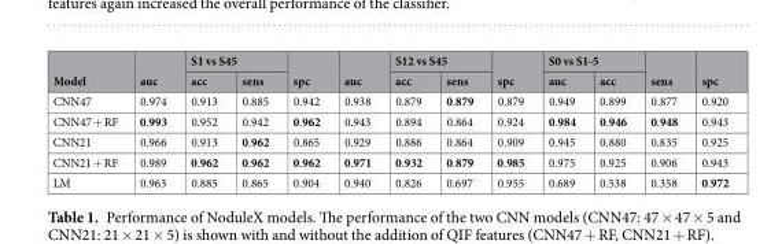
<table><thead><tr><td rowspan="2">Model</td><td rowspan="2">auc</td><td colspan="2">S1 vs S45</td><td rowspan="2">spc</td><td rowspan="2">auc</td><td colspan="2">S12 vs S45</td><td rowspan="2">spc</td><td colspan="2">S0 vs S1-5</td><td rowspan="2">sens</td><td rowspan="2">spc</td></tr><tr><td>acc</td><td>sens</td><td>acc</td><td>sens</td><td>auc</td><td>acc</td></tr></thead><tbody><tr><td>CNN47</td><td>0.974</td><td>0.913</td><td>0.885</td><td>0.942</td><td>0.938</td><td>0.879</td><td>0.879</td><td>0.879</td><td>0.949</td><td>0.899</td><td>0.877</td><td>0.920</td></tr><tr><td>CNN47 + RF</td><td>0.993</td><td>0.952</td><td>0.942</td><td>0.962</td><td>0.943</td><td>0.894</td><td>0.864</td><td>0.924</td><td>0.984</td><td>0.946</td><td>0.948</td><td>0.943</td></tr><tr><td>CNN21</td><td>0.966</td><td>0.913</td><td>0.962</td><td>0.865</td><td>0.929</td><td>0.886</td><td>0.864</td><td>0.909</td><td>0.945</td><td>0.880</td><td>0.835</td><td>0.925</td></tr><tr><td>CNN21 + RF</td><td>0.989</td><td>0.962</td><td>0.962</td><td>0.962</td><td>0.971</td><td>0.932</td><td>0.879</td><td>0.985</td><td>0.975</td><td>0.925</td><td>0.906</td><td>0.943</td></tr><tr><td>LM</td><td>0.963</td><td>0.885</td><td>0.865</td><td>0.904</td><td>0.940</td><td>0.826</td><td>0.697</td><td>0.955</td><td>0.689</td><td>0.538</td><td>0.358</td><td>0.972</td></tr></tbody></table>